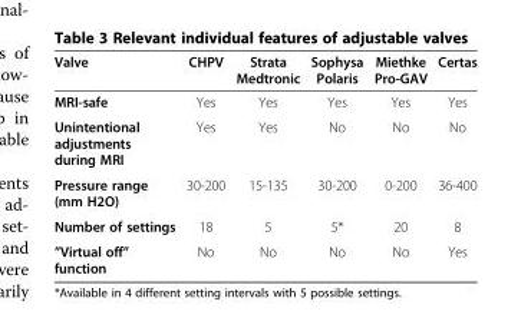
<table><thead><tr><td>Valve</td><td>CHPV</td><td>Strata Medtronic</td><td>Sophysa Polaris</td><td>Miethke Pro-GAV</td><td>Certas</td></tr></thead><tbody><tr><td>MRI-safe</td><td>Yes</td><td>Yes</td><td>Yes</td><td>Yes</td><td>Yes</td></tr><tr><td>Unintentional adjustments during MRI</td><td>Yes</td><td>Yes</td><td>No</td><td>No</td><td>No</td></tr><tr><td>Pressure range (mm H2O)</td><td>30-200</td><td>15-135</td><td>30-200</td><td>0-200</td><td>36-400</td></tr><tr><td>Number of settings</td><td>18</td><td>5</td><td>5*</td><td>20</td><td>8</td></tr><tr><td>”Virtual off” function</td><td>No</td><td>No</td><td>No</td><td>No</td><td>Yes</td></tr></tbody></table>